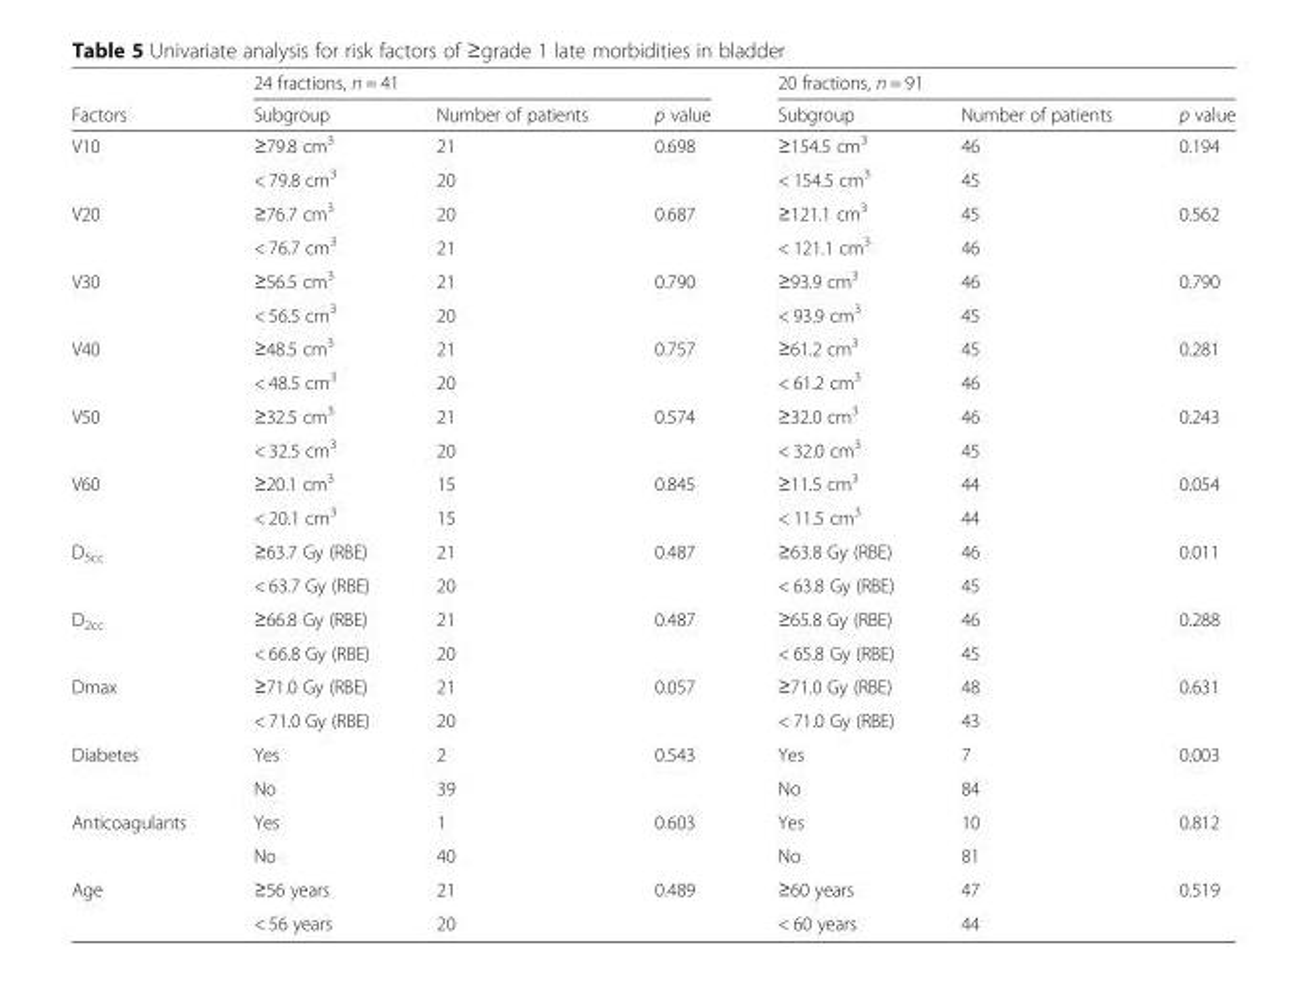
<table><thead><tr><td rowspan="2">Factors</td><td colspan="3">24 fractions, n = 41</td><td colspan="3">20 fractions, n = 91</td></tr><tr><td>Subgroup</td><td>Number of patients</td><td>p value</td><td>Subgroup</td><td>Number of patients</td><td>p value</td></tr></thead><tbody><tr><td rowspan="2">V10</td><td>≥79.8 cm<sup>3</sup></td><td>21</td><td rowspan="2">0.698</td><td>≥154.5 cm<sup>3</sup></td><td>46</td><td rowspan="2">0.194</td></tr><tr><td>&lt; 79.8 cm<sup>3</sup></td><td>20</td><td>&lt; 154.5 cm<sup>3</sup></td><td>45</td></tr><tr><td rowspan="2">V20</td><td>≥76.7 cm<sup>3</sup></td><td>20</td><td rowspan="2">0.687</td><td>≥121.1 cm<sup>3</sup></td><td>45</td><td rowspan="2">0.562</td></tr><tr><td>&lt; 76.7 cm<sup>3</sup></td><td>21</td><td>&lt; 121.1 cm<sup>3</sup></td><td>46</td></tr><tr><td rowspan="2">V30</td><td>≥56.5 cm<sup>3</sup></td><td>21</td><td rowspan="2">0.790</td><td>≥93.9 cm<sup>3</sup></td><td>46</td><td rowspan="2">0.790</td></tr><tr><td>&lt; 56.5 cm<sup>3</sup></td><td>20</td><td>&lt; 93.9 cm<sup>3</sup></td><td>45</td></tr><tr><td rowspan="2">V40</td><td>≥48.5 cm<sup>3</sup></td><td>21</td><td rowspan="2">0.757</td><td>≥61.2 cm<sup>3</sup></td><td>45</td><td rowspan="2">0.281</td></tr><tr><td>&lt; 48.5 cm<sup>3</sup></td><td>20</td><td>&lt; 61.2 cm<sup>3</sup></td><td>46</td></tr><tr><td rowspan="2">V50</td><td>≥32.5 cm<sup>3</sup></td><td>21</td><td rowspan="2">0.574</td><td>≥32.0 cm<sup>3</sup></td><td>46</td><td rowspan="2">0.243</td></tr><tr><td>&lt; 32.5 cm<sup>3</sup></td><td>20</td><td>&lt; 32.0 cm<sup>3</sup></td><td>45</td></tr><tr><td rowspan="2">V60</td><td>≥20.1 cm<sup>3</sup></td><td>15</td><td rowspan="2">0.845</td><td>≥11.5 cm<sup>3</sup></td><td>44</td><td rowspan="2">0.054</td></tr><tr><td>&lt; 20.1 cm<sup>3</sup></td><td>15</td><td>&lt; 11.5 cm<sup>3</sup></td><td>44</td></tr><tr><td rowspan="2">D<sub>5cc</sub></td><td>≥63.7 Gy (RBE)</td><td>21</td><td rowspan="2">0.487</td><td>≥63.8 Gy (RBE)</td><td>46</td><td rowspan="2">0.011</td></tr><tr><td>&lt; 63.7 Gy (RBE)</td><td>20</td><td>&lt; 63.8 Gy (RBE)</td><td>45</td></tr><tr><td rowspan="2">D<sub>2cc</sub></td><td>≥66.8 Gy (RBE)</td><td>21</td><td rowspan="2">0.487</td><td>≥65.8 Gy (RBE)</td><td>46</td><td rowspan="2">0.288</td></tr><tr><td>&lt; 66.8 Gy (RBE)</td><td>20</td><td>&lt; 65.8 Gy (RBE)</td><td>45</td></tr><tr><td rowspan="2">Dmax</td><td>≥71.0 Gy (RBE)</td><td>21</td><td rowspan="2">0.057</td><td>≥71.0 Gy (RBE)</td><td>48</td><td rowspan="2">0.631</td></tr><tr><td>&lt; 71.0 Gy (RBE)</td><td>20</td><td>&lt; 71.0 Gy (RBE)</td><td>43</td></tr><tr><td rowspan="2">Diabetes</td><td>Yes</td><td>2</td><td rowspan="2">0.543</td><td>Yes</td><td>7</td><td rowspan="2">0.003</td></tr><tr><td>No</td><td>39</td><td>No</td><td>84</td></tr><tr><td rowspan="2">Anticoagulants</td><td>Yes</td><td>1</td><td rowspan="2">0.603</td><td>Yes</td><td>10</td><td rowspan="2">0.812</td></tr><tr><td>No</td><td>40</td><td>No</td><td>81</td></tr><tr><td rowspan="2">Age</td><td>≥56 years</td><td>21</td><td rowspan="2">0.489</td><td>≥60 years</td><td>47</td><td rowspan="2">0.519</td></tr><tr><td>&lt; 56 years</td><td>20</td><td>&lt; 60 years</td><td>44</td></tr></tbody></table>